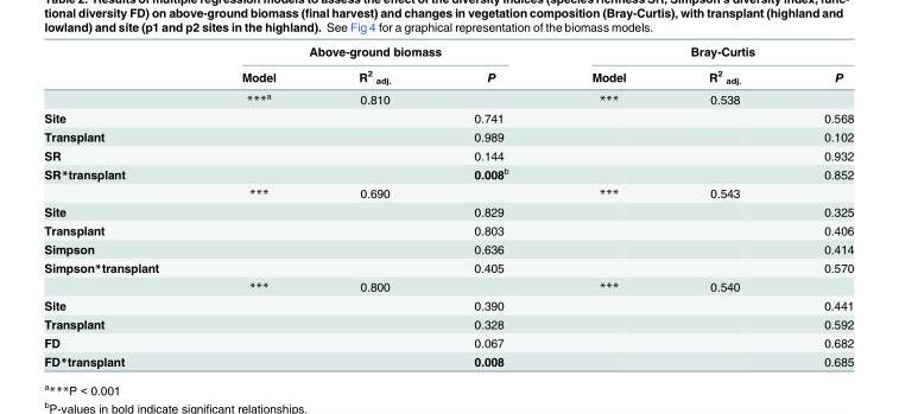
<table><thead><tr><td rowspan="2"></td><td colspan="3">Above-ground biomass</td><td colspan="3">Bray-Curtis</td></tr><tr><td>Model</td><td>R<sup>2</sup> <sub>adj.</sub></td><td>P</td><td>Model</td><td>R<sup>2</sup> <sub>adj.</sub></td><td>P</td></tr></thead><tbody><tr><td></td><td>***<sup>a</sup></td><td>0.810</td><td></td><td>***</td><td>0.538</td><td></td></tr><tr><td>Site</td><td></td><td></td><td>0.741</td><td></td><td></td><td>0.568</td></tr><tr><td>Transplant</td><td></td><td></td><td>0.989</td><td></td><td></td><td>0.102</td></tr><tr><td>SR</td><td></td><td></td><td>0.144</td><td></td><td></td><td>0.932</td></tr><tr><td rowspan="2">SR*transplant</td><td></td><td></td><td>0.008<sup>b</sup></td><td></td><td></td><td>0.852</td></tr><tr><td>***</td><td>0.690</td><td></td><td>***</td><td>0.543</td><td></td></tr><tr><td>Site</td><td></td><td></td><td>0.829</td><td></td><td></td><td>0.325</td></tr><tr><td>Transplant</td><td></td><td></td><td>0.803</td><td></td><td></td><td>0.406</td></tr><tr><td>Simpson</td><td></td><td></td><td>0.636</td><td></td><td></td><td>0.414</td></tr><tr><td rowspan="2">Simpson*transplant</td><td></td><td></td><td>0.405</td><td></td><td></td><td>0.570</td></tr><tr><td>***</td><td>0.800</td><td></td><td>***</td><td>0.540</td><td></td></tr><tr><td>Site</td><td></td><td></td><td>0.390</td><td></td><td></td><td>0.441</td></tr><tr><td>Transplant</td><td></td><td></td><td>0.328</td><td></td><td></td><td>0.592</td></tr><tr><td>FD</td><td></td><td></td><td>0.067</td><td></td><td></td><td>0.682</td></tr><tr><td>FD*transplant</td><td></td><td></td><td>0.008</td><td></td><td></td><td>0.685</td></tr></tbody></table>